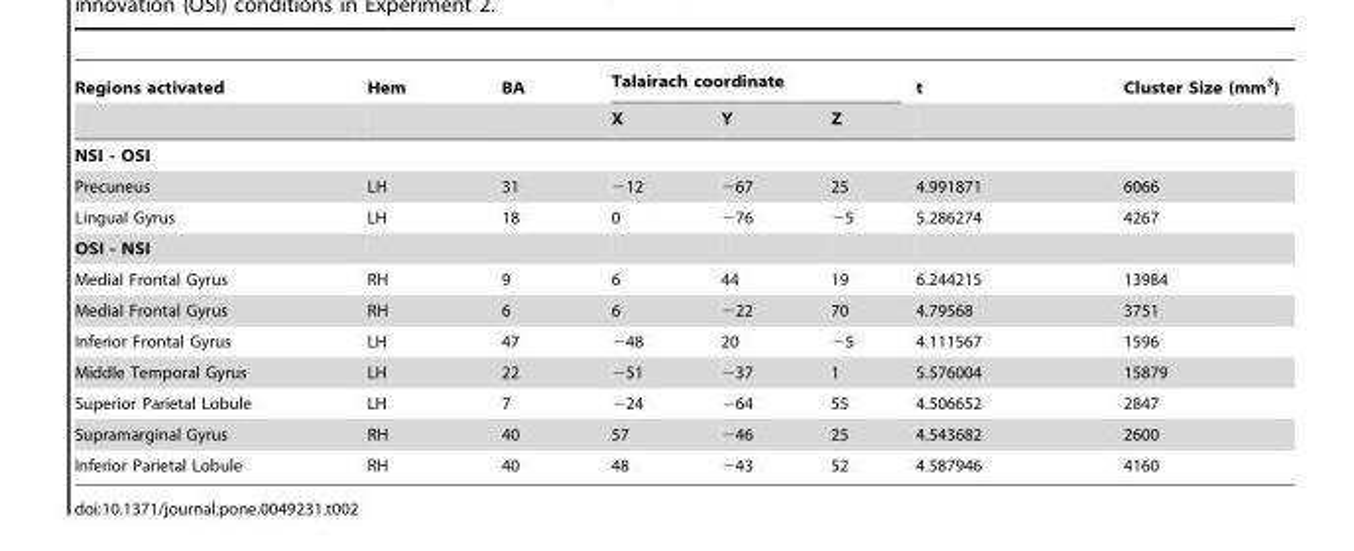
<table><thead><tr><td rowspan="2">Regions activated</td><td rowspan="2">Hem</td><td rowspan="2">BA</td><td colspan="3">Talairach coordinate</td><td rowspan="2">t</td><td rowspan="2">Cluster Size (mm<sup>3</sup>)</td></tr><tr><td>X</td><td>Y</td><td>Z</td></tr></thead><tbody><tr><td colspan="8">NSI - OSI</td></tr><tr><td>Precuneus</td><td>LH</td><td>31</td><td>−12</td><td>−67</td><td>25</td><td>4.991871</td><td>6066</td></tr><tr><td>Lingual Gyrus</td><td>LH</td><td>18</td><td>0</td><td>−76</td><td>−5</td><td>5.286274</td><td>4267</td></tr><tr><td colspan="8">OSI - NSI</td></tr><tr><td>Medial Frontal Gyrus</td><td>RH</td><td>9</td><td>6</td><td>44</td><td>19</td><td>6.244215</td><td>13984</td></tr><tr><td>Medial Frontal Gyrus</td><td>RH</td><td>6</td><td>6</td><td>−22</td><td>70</td><td>4.79568</td><td>3751</td></tr><tr><td>Inferior Frontal Gyrus</td><td>LH</td><td>47</td><td>−48</td><td>20</td><td>−5</td><td>4.111567</td><td>1596</td></tr><tr><td>Middle Temporal Gyrus</td><td>LH</td><td>22</td><td>−51</td><td>−37</td><td>1</td><td>5.576004</td><td>15879</td></tr><tr><td>Superior Parietal Lobule</td><td>LH</td><td>7</td><td>−24</td><td>−64</td><td>55</td><td>4.506652</td><td>2847</td></tr><tr><td>Supramarginal Gyrus</td><td>RH</td><td>40</td><td>57</td><td>−46</td><td>25</td><td>4.543682</td><td>2600</td></tr><tr><td>Inferior Parietal Lobule</td><td>RH</td><td>40</td><td>48</td><td>−43</td><td>52</td><td>4.587946</td><td>4160</td></tr></tbody></table>